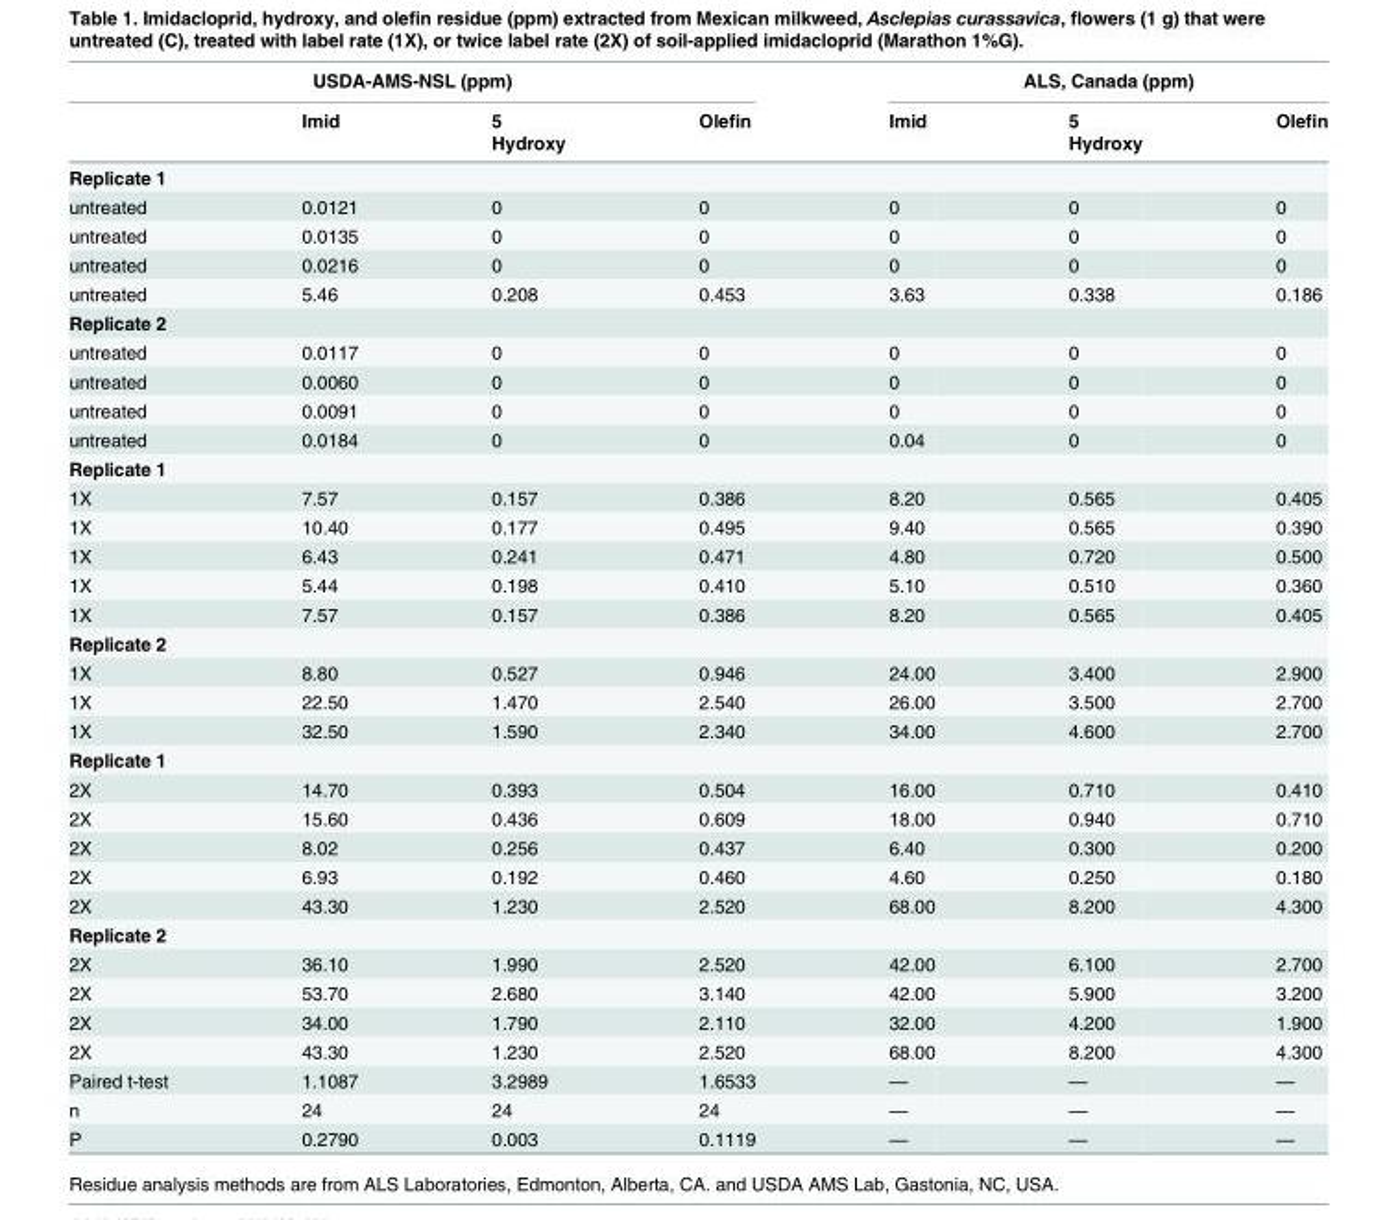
<table><thead><tr><td colspan="4">USDA-AMS-NSL (ppm)</td><td colspan="3">ALS, Canada (ppm)</td></tr><tr><td rowspan="2"></td><td rowspan="2">Imid</td><td rowspan="2">5 Hydroxy</td><td rowspan="2">Olefin</td><td rowspan="2">Imid</td><td rowspan="2">5 Hydroxy</td><td rowspan="2">Olefin</td></tr><tr></tr></thead><tbody><tr><td colspan="7">Replicate 1</td></tr><tr><td>untreated</td><td>0.0121</td><td>0</td><td>0</td><td>0</td><td>0</td><td>0</td></tr><tr><td>untreated</td><td>0.0135</td><td>0</td><td>0</td><td>0</td><td>0</td><td>0</td></tr><tr><td>untreated</td><td>0.0216</td><td>0</td><td>0</td><td>0</td><td>0</td><td>0</td></tr><tr><td>untreated</td><td>5.46</td><td>0.208</td><td>0.453</td><td>3.63</td><td>0.338</td><td>0.186</td></tr><tr><td colspan="7">Replicate 2</td></tr><tr><td>untreated</td><td>0.0117</td><td>0</td><td>0</td><td>0</td><td>0</td><td>0</td></tr><tr><td>untreated</td><td>0.0060</td><td>0</td><td>0</td><td>0</td><td>0</td><td>0</td></tr><tr><td>untreated</td><td>0.0091</td><td>0</td><td>0</td><td>0</td><td>0</td><td>0</td></tr><tr><td>untreated</td><td>0.0184</td><td>0</td><td>0</td><td>0.04</td><td>0</td><td>0</td></tr><tr><td colspan="7">Replicate 1</td></tr><tr><td>1X</td><td>7.57</td><td>0.157</td><td>0.386</td><td>8.20</td><td>0.565</td><td>0.405</td></tr><tr><td>1X</td><td>10.40</td><td>0.177</td><td>0.495</td><td>9.40</td><td>0.565</td><td>0.390</td></tr><tr><td>1X</td><td>6.43</td><td>0.241</td><td>0.471</td><td>4.80</td><td>0.720</td><td>0.500</td></tr><tr><td>1X</td><td>5.44</td><td>0.198</td><td>0.410</td><td>5.10</td><td>0.510</td><td>0.360</td></tr><tr><td>1X</td><td>7.57</td><td>0.157</td><td>0.386</td><td>8.20</td><td>0.565</td><td>0.405</td></tr><tr><td colspan="7">Replicate 2</td></tr><tr><td>1X</td><td>8.80</td><td>0.527</td><td>0.946</td><td>24.00</td><td>3.400</td><td>2.900</td></tr><tr><td>1X</td><td>22.50</td><td>1.470</td><td>2.540</td><td>26.00</td><td>3.500</td><td>2.700</td></tr><tr><td>1X</td><td>32.50</td><td>1.590</td><td>2.340</td><td>34.00</td><td>4.600</td><td>2.700</td></tr><tr><td colspan="7">Replicate 1</td></tr><tr><td>2X</td><td>14.70</td><td>0.393</td><td>0.504</td><td>16.00</td><td>0.710</td><td>0.410</td></tr><tr><td>2X</td><td>15.60</td><td>0.436</td><td>0.609</td><td>18.00</td><td>0.940</td><td>0.710</td></tr><tr><td>2X</td><td>8.02</td><td>0.256</td><td>0.437</td><td>6.40</td><td>0.300</td><td>0.200</td></tr><tr><td>2X</td><td>6.93</td><td>0.192</td><td>0.460</td><td>4.60</td><td>0.250</td><td>0.180</td></tr><tr><td>2X</td><td>43.30</td><td>1.230</td><td>2.520</td><td>68.00</td><td>8.200</td><td>4.300</td></tr><tr><td colspan="7">Replicate 2</td></tr><tr><td>2X</td><td>36.10</td><td>1.990</td><td>2.520</td><td>42.00</td><td>6.100</td><td>2.700</td></tr><tr><td>2X</td><td>53.70</td><td>2.680</td><td>3.140</td><td>42.00</td><td>5.900</td><td>3.200</td></tr><tr><td>2X</td><td>34.00</td><td>1.790</td><td>2.110</td><td>32.00</td><td>4.200</td><td>1.900</td></tr><tr><td>2X</td><td>43.30</td><td>1.230</td><td>2.520</td><td>68.00</td><td>8.200</td><td>4.300</td></tr><tr><td>Paired t-test</td><td>1.1087</td><td>3.2989</td><td>1.6533</td><td>—</td><td>—</td><td>—</td></tr><tr><td>n</td><td>24</td><td>24</td><td>24</td><td>—</td><td>—</td><td>—</td></tr><tr><td>P</td><td>0.2790</td><td>0.003</td><td>0.1119</td><td>—</td><td>—</td><td>—</td></tr></tbody></table>